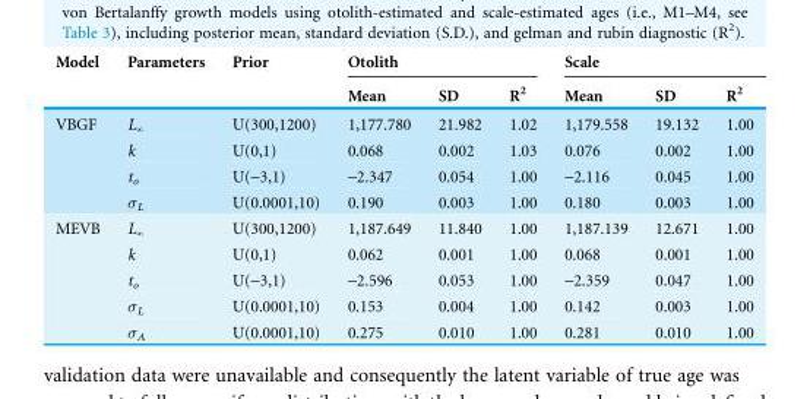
<table><thead><tr><td rowspan="2">Model</td><td rowspan="2">Parameters</td><td rowspan="2">Prior</td><td colspan="3">Otolith</td><td colspan="3">Scale</td></tr><tr><td>Mean</td><td>SD</td><td>R<sup>2</sup></td><td>Mean</td><td>SD</td><td>R<sup>2</sup></td></tr></thead><tbody><tr><td rowspan="4">VBGF</td><td>L<sub>∞</sub></td><td>U(300,1200)</td><td>1,177.780</td><td>21.982</td><td>1.02</td><td>1,179.558</td><td>19.132</td><td>1.00</td></tr><tr><td>k</td><td>U(0,1)</td><td>0.068</td><td>0.002</td><td>1.03</td><td>0.076</td><td>0.002</td><td>1.00</td></tr><tr><td>t<sub>o</sub></td><td>U(-3,1)</td><td>-2.347</td><td>0.054</td><td>1.00</td><td>-2.116</td><td>0.045</td><td>1.00</td></tr><tr><td>σ<sub>L</sub></td><td>U(0.0001,10)</td><td>0.190</td><td>0.003</td><td>1.00</td><td>0.180</td><td>0.003</td><td>1.00</td></tr><tr><td rowspan="5">MEVB</td><td>L<sub>∞</sub></td><td>U(300,1200)</td><td>1,187.649</td><td>11.840</td><td>1.00</td><td>1,187.139</td><td>12.671</td><td>1.00</td></tr><tr><td>k</td><td>U(0,1)</td><td>0.062</td><td>0.001</td><td>1.00</td><td>0.068</td><td>0.001</td><td>1.00</td></tr><tr><td>t<sub>o</sub></td><td>U(-3,1)</td><td>-2.596</td><td>0.053</td><td>1.00</td><td>-2.359</td><td>0.047</td><td>1.00</td></tr><tr><td>σ<sub>L</sub></td><td>U(0.0001,10)</td><td>0.153</td><td>0.004</td><td>1.00</td><td>0.142</td><td>0.003</td><td>1.00</td></tr><tr><td>σ<sub>A</sub></td><td>U(0.0001,10)</td><td>0.275</td><td>0.010</td><td>1.00</td><td>0.281</td><td>0.010</td><td>1.00</td></tr></tbody></table>